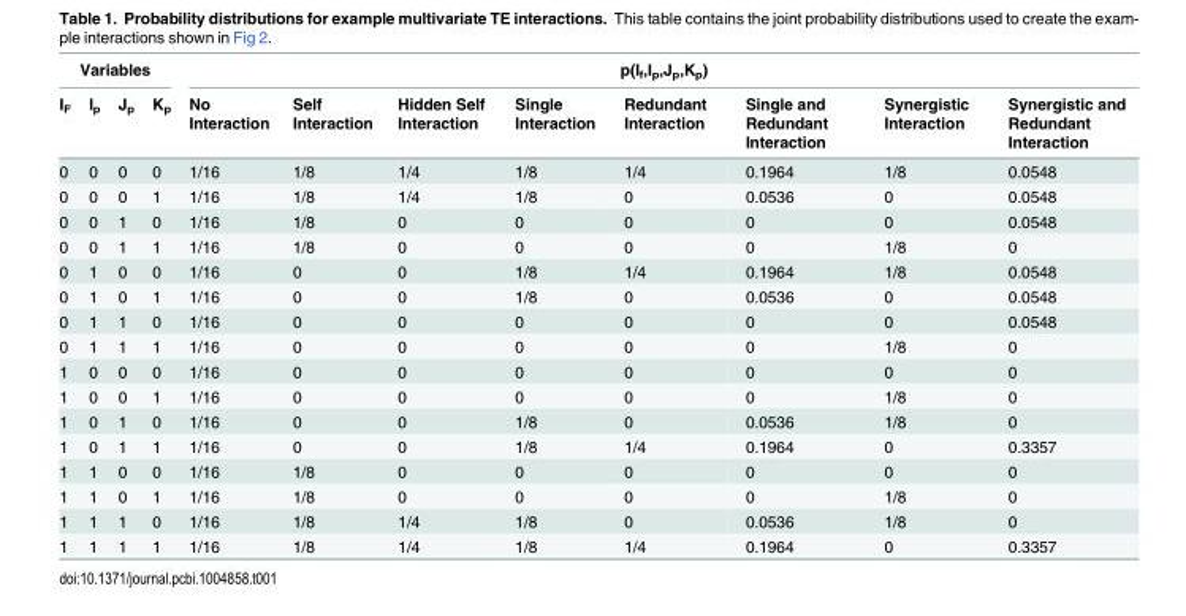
<table><thead><tr><td colspan="4">Variables</td><td colspan="8">p(I<sub>f</sub>,I<sub>p</sub>,J<sub>p</sub>,K<sub>p</sub>)</td></tr><tr><td>I<sub>F</sub></td><td>I<sub>p</sub></td><td>J<sub>p</sub></td><td>K<sub>p</sub></td><td>No Interaction</td><td>Self Interaction</td><td>Hidden Self Interaction</td><td>Single Interaction</td><td>Redundant Interaction</td><td>Single and Redundant Interaction</td><td>Synergistic Interaction</td><td>Synergistic and Redundant Interaction</td></tr></thead><tbody><tr><td>0</td><td>0</td><td>0</td><td>0</td><td>1/16</td><td>1/8</td><td>1/4</td><td>1/8</td><td>1/4</td><td>0.1964</td><td>1/8</td><td>0.0548</td></tr><tr><td>0</td><td>0</td><td>0</td><td>1</td><td>1/16</td><td>1/8</td><td>1/4</td><td>1/8</td><td>0</td><td>0.0536</td><td>0</td><td>0.0548</td></tr><tr><td>0</td><td>0</td><td>1</td><td>0</td><td>1/16</td><td>1/8</td><td>0</td><td>0</td><td>0</td><td>0</td><td>0</td><td>0.0548</td></tr><tr><td>0</td><td>0</td><td>1</td><td>1</td><td>1/16</td><td>1/8</td><td>0</td><td>0</td><td>0</td><td>0</td><td>1/8</td><td>0</td></tr><tr><td>0</td><td>1</td><td>0</td><td>0</td><td>1/16</td><td>0</td><td>0</td><td>1/8</td><td>1/4</td><td>0.1964</td><td>1/8</td><td>0.0548</td></tr><tr><td>0</td><td>1</td><td>0</td><td>1</td><td>1/16</td><td>0</td><td>0</td><td>1/8</td><td>0</td><td>0.0536</td><td>0</td><td>0.0548</td></tr><tr><td>0</td><td>1</td><td>1</td><td>0</td><td>1/16</td><td>0</td><td>0</td><td>0</td><td>0</td><td>0</td><td>0</td><td>0.0548</td></tr><tr><td>0</td><td>1</td><td>1</td><td>1</td><td>1/16</td><td>0</td><td>0</td><td>0</td><td>0</td><td>0</td><td>1/8</td><td>0</td></tr><tr><td>1</td><td>0</td><td>0</td><td>0</td><td>1/16</td><td>0</td><td>0</td><td>0</td><td>0</td><td>0</td><td>0</td><td>0</td></tr><tr><td>1</td><td>0</td><td>0</td><td>1</td><td>1/16</td><td>0</td><td>0</td><td>0</td><td>0</td><td>0</td><td>1/8</td><td>0</td></tr><tr><td>1</td><td>0</td><td>1</td><td>0</td><td>1/16</td><td>0</td><td>0</td><td>1/8</td><td>0</td><td>0.0536</td><td>1/8</td><td>0</td></tr><tr><td>1</td><td>0</td><td>1</td><td>1</td><td>1/16</td><td>0</td><td>0</td><td>1/8</td><td>1/4</td><td>0.1964</td><td>0</td><td>0.3357</td></tr><tr><td>1</td><td>1</td><td>0</td><td>0</td><td>1/16</td><td>1/8</td><td>0</td><td>0</td><td>0</td><td>0</td><td>0</td><td>0</td></tr><tr><td>1</td><td>1</td><td>0</td><td>1</td><td>1/16</td><td>1/8</td><td>0</td><td>0</td><td>0</td><td>0</td><td>1/8</td><td>0</td></tr><tr><td>1</td><td>1</td><td>1</td><td>0</td><td>1/16</td><td>1/8</td><td>1/4</td><td>1/8</td><td>0</td><td>0.0536</td><td>1/8</td><td>0</td></tr><tr><td>1</td><td>1</td><td>1</td><td>1</td><td>1/16</td><td>1/8</td><td>1/4</td><td>1/8</td><td>1/4</td><td>0.1964</td><td>0</td><td>0.3357</td></tr></tbody></table>